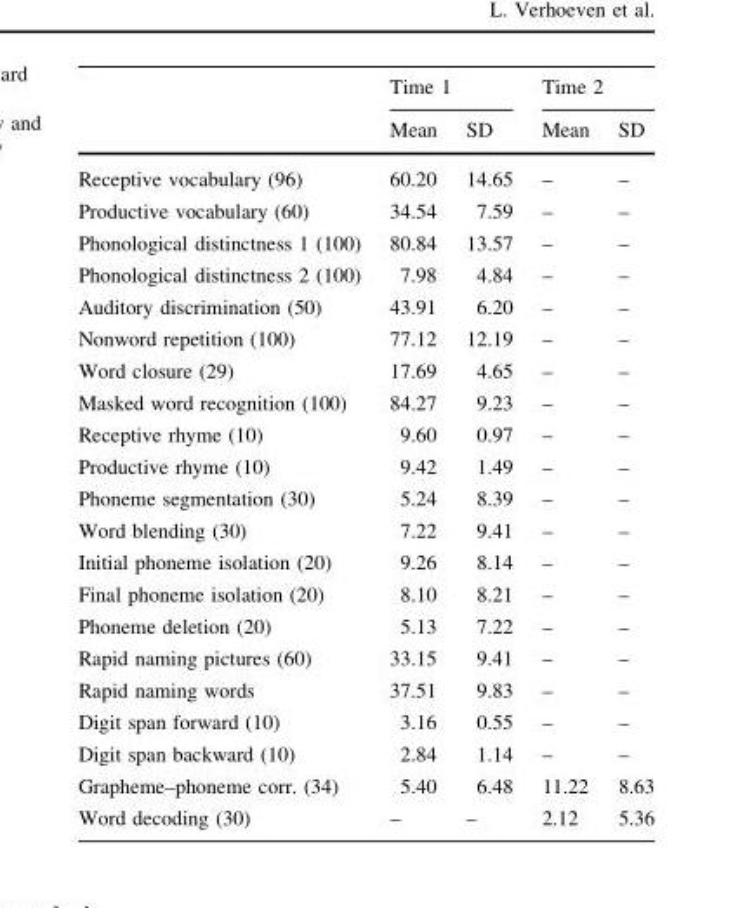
<table><thead><tr><td rowspan="2"></td><td colspan="2">Time 1</td><td colspan="2">Time 2</td></tr><tr><td>Mean</td><td>SD</td><td>Mean</td><td>SD</td></tr></thead><tbody><tr><td>Receptive vocabulary (96)</td><td>60.20</td><td>14.65</td><td>–</td><td>–</td></tr><tr><td>Productive vocabulary (60)</td><td>34.54</td><td>7.59</td><td>–</td><td>–</td></tr><tr><td>Phonological distinctness 1 (100)</td><td>80.84</td><td>13.57</td><td>–</td><td>–</td></tr><tr><td>Phonological distinctness 2 (100)</td><td>7.98</td><td>4.84</td><td>–</td><td>–</td></tr><tr><td>Auditory discrimination (50)</td><td>43.91</td><td>6.20</td><td>–</td><td>–</td></tr><tr><td>Nonword repetition (100)</td><td>77.12</td><td>12.19</td><td>–</td><td>–</td></tr><tr><td>Word closure (29)</td><td>17.69</td><td>4.65</td><td>–</td><td>–</td></tr><tr><td>Masked word recognition (100)</td><td>84.27</td><td>9.23</td><td>–</td><td>–</td></tr><tr><td>Receptive rhyme (10)</td><td>9.60</td><td>0.97</td><td>–</td><td>–</td></tr><tr><td>Productive rhyme (10)</td><td>9.42</td><td>1.49</td><td>–</td><td>–</td></tr><tr><td>Phoneme segmentation (30)</td><td>5.24</td><td>8.39</td><td>–</td><td>–</td></tr><tr><td>Word blending (30)</td><td>7.22</td><td>9.41</td><td>–</td><td>–</td></tr><tr><td>Initial phoneme isolation (20)</td><td>9.26</td><td>8.14</td><td>–</td><td>–</td></tr><tr><td>Final phoneme isolation (20)</td><td>8.10</td><td>8.21</td><td>–</td><td>–</td></tr><tr><td>Phoneme deletion (20)</td><td>5.13</td><td>7.22</td><td>–</td><td>–</td></tr><tr><td>Rapid naming pictures (60)</td><td>33.15</td><td>9.41</td><td>–</td><td>–</td></tr><tr><td>Rapid naming words</td><td>37.51</td><td>9.83</td><td>–</td><td>–</td></tr><tr><td>Digit span forward (10)</td><td>3.16</td><td>0.55</td><td>–</td><td>–</td></tr><tr><td>Digit span backward (10)</td><td>2.84</td><td>1.14</td><td>–</td><td>–</td></tr><tr><td>Grapheme–phoneme corr. (34)</td><td>5.40</td><td>6.48</td><td>11.22</td><td>8.63</td></tr><tr><td>Word decoding (30)</td><td>–</td><td>–</td><td>2.12</td><td>5.36</td></tr></tbody></table>